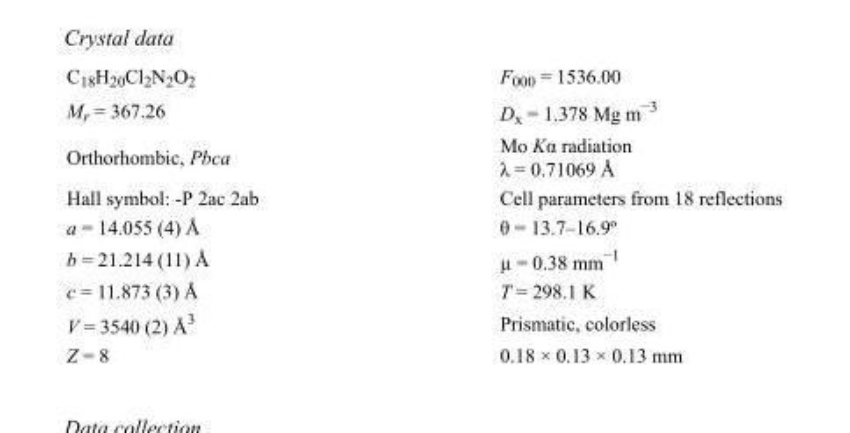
<table><tbody><tr><td>C<sub>18</sub>H<sub>20</sub>Cl<sub>2</sub>N<sub>2</sub>O<sub>2</sub></td><td>F<sub>000</sub> = 1536.00</td></tr><tr><td>M<sub>r</sub> = 367.26</td><td>D<sub>x</sub> = 1.378 Mg m<sup>−3</sup></td></tr><tr><td>Orthorhombic, Pbca</td><td>Mo Kα radiation λ = 0.71069 Å</td></tr><tr><td>Hall symbol: -P 2ac 2ab</td><td>Cell parameters from 18 reflections</td></tr><tr><td>a = 14.055 (4) Å</td><td>θ = 13.7–16.9º</td></tr><tr><td>b = 21.214 (11) Å</td><td>µ = 0.38 mm<sup>−1</sup></td></tr><tr><td>c = 11.873 (3) Å</td><td>T = 298.1 K</td></tr><tr><td>V = 3540 (2) Å<sup>3</sup></td><td>Prismatic, colorless</td></tr><tr><td>Z = 8</td><td>0.18 × 0.13 × 0.13 mm</td></tr></tbody></table>